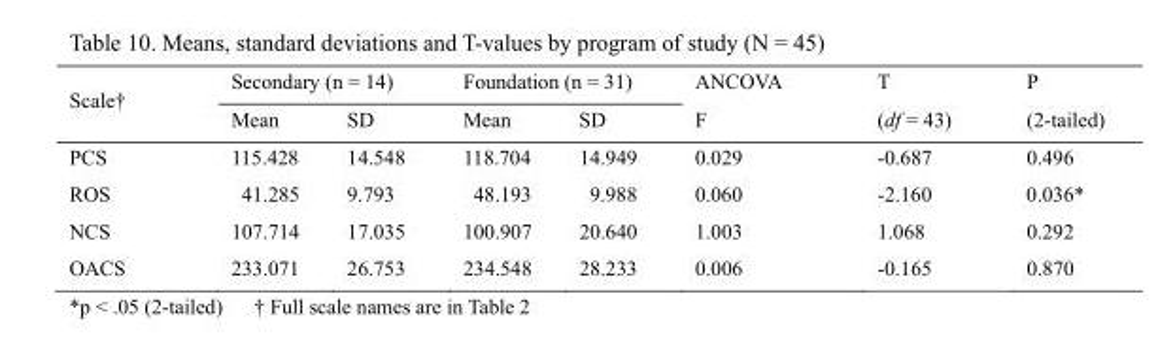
<table><thead><tr><td rowspan="2">Scale†</td><td colspan="2">Secondary (n = 14)</td><td colspan="2">Foundation (n = 31)</td><td rowspan="2">ANCOVA F</td><td rowspan="2">T (df = 43)</td><td rowspan="2">P (2-tailed)</td></tr><tr><td>Mean</td><td>SD</td><td>Mean</td><td>SD</td></tr></thead><tbody><tr><td>PCS</td><td>115.428</td><td>14.548</td><td>118.704</td><td>14.949</td><td>0.029</td><td>-0.687</td><td>0.496</td></tr><tr><td>ROS</td><td>41.285</td><td>9.793</td><td>48.193</td><td>9.988</td><td>0.060</td><td>-2.160</td><td>0.036*</td></tr><tr><td>NCS</td><td>107.714</td><td>17.035</td><td>100.907</td><td>20.640</td><td>1.003</td><td>1.068</td><td>0.292</td></tr><tr><td>OACS</td><td>233.071</td><td>26.753</td><td>234.548</td><td>28.233</td><td>0.006</td><td>-0.165</td><td>0.870</td></tr></tbody></table>